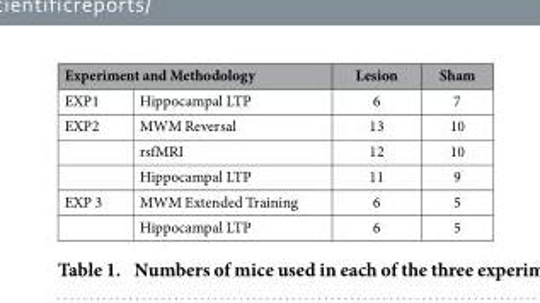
<table><thead><tr><td colspan="2">Experiment and Methodology</td><td rowspan="2">Lesion 6</td><td rowspan="2">Sham 7</td></tr><tr><td>EXP1</td><td>Hippocampal LTP</td></tr></thead><tbody><tr><td rowspan="3">EXP2</td><td>MWM Reversal</td><td>13</td><td>10</td></tr><tr><td>rsfMRI</td><td>12</td><td>10</td></tr><tr><td>Hippocampal LTP</td><td>11</td><td>9</td></tr><tr><td rowspan="2">EXP 3</td><td>MWM Extended Training</td><td>6</td><td>5</td></tr><tr><td>Hippocampal LTP</td><td>6</td><td>5</td></tr></tbody></table>